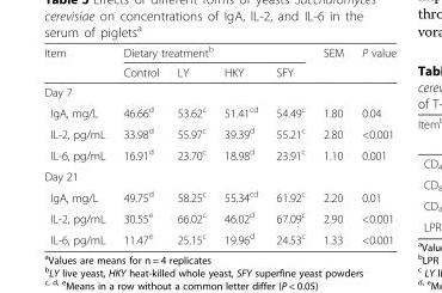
<table><thead><tr><td rowspan="2">Item</td><td colspan="4">Dietary treatment<sup>b</sup></td><td rowspan="2">SEM</td><td rowspan="2">P value</td></tr><tr><td>Control</td><td>LY</td><td>HKY</td><td>SFY</td></tr></thead><tbody><tr><td colspan="7">Day 7</td></tr><tr><td>IgA, mg/L</td><td>46.66<sup>d</sup></td><td>53.62<sup>c</sup></td><td>51.41<sup>cd</sup></td><td>54.49<sup>c</sup></td><td>1.80</td><td>0.04</td></tr><tr><td>IL-2, pg/mL</td><td>33.98<sup>d</sup></td><td>55.97<sup>c</sup></td><td>39.39<sup>d</sup></td><td>55.21<sup>c</sup></td><td>2.80</td><td>&lt;0.001</td></tr><tr><td>IL-6, pg/mL</td><td>16.91<sup>d</sup></td><td>23.70<sup>c</sup></td><td>18.98<sup>d</sup></td><td>23.91<sup>c</sup></td><td>1.10</td><td>0.001</td></tr><tr><td colspan="7">Day 21</td></tr><tr><td>IgA, mg/L</td><td>49.75<sup>d</sup></td><td>58.25<sup>c</sup></td><td>55.34<sup>cd</sup></td><td>61.92<sup>c</sup></td><td>2.20</td><td>0.01</td></tr><tr><td>IL-2, pg/mL</td><td>30.55<sup>e</sup></td><td>66.02<sup>c</sup></td><td>46.02<sup>d</sup></td><td>67.09<sup>c</sup></td><td>2.90</td><td>&lt;0.001</td></tr><tr><td>IL-6, pg/mL</td><td>11.47<sup>e</sup></td><td>25.15<sup>c</sup></td><td>19.96<sup>d</sup></td><td>24.53<sup>c</sup></td><td>1.33</td><td>&lt;0.001</td></tr></tbody></table>